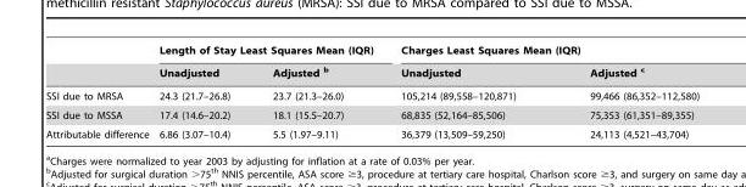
<table><thead><tr><td rowspan="2"></td><td colspan="2">Length of Stay Least Squares Mean (IQR)</td><td colspan="2">Charges Least Squares Mean (IQR)</td></tr><tr><td>Unadjusted</td><td>Adjusted b</td><td>Unadjusted</td><td>Adjusted c</td></tr></thead><tbody><tr><td>SSI due to MRSA</td><td>24.3 (21.7–26.8)</td><td>23.7 (21.3–26.0)</td><td>105,214 (89,558–120,871)</td><td>99,466 (86,352–112,580)</td></tr><tr><td>SSI due to MSSA</td><td>17.4 (14.6–20.2)</td><td>18.1 (15.5–20.7)</td><td>68,835 (52,164–85,506)</td><td>75,353 (61,351–89,355)</td></tr><tr><td>Attributable difference</td><td>6.86 (3.07–10.4)</td><td>5.5 (1.97–9.11)</td><td>36,379 (13,509–59,250)</td><td>24,113 (4,521–43,704)</td></tr></tbody></table>